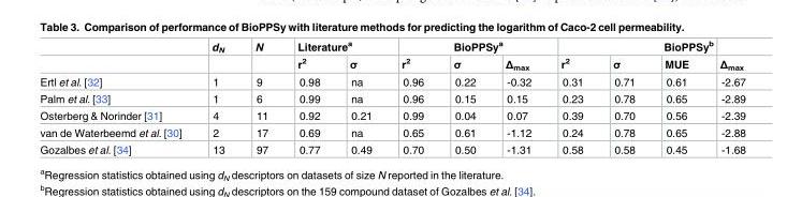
<table><thead><tr><td rowspan="2"></td><td rowspan="2">d<sub>N</sub></td><td rowspan="2">N</td><td colspan="2">Literature<sup>a</sup></td><td colspan="3">BioPPSy<sup>a</sup></td><td colspan="3">BioPPSy<sup>b</sup></td><td rowspan="2">Δ<sub>max</sub></td></tr><tr><td>r<sup>2</sup></td><td>σ</td><td>r<sup>2</sup></td><td>σ</td><td>Δ<sub>max</sub></td><td>r<sup>2</sup></td><td>σ</td><td>MUE</td></tr></thead><tbody><tr><td>Ertl et al. [32]</td><td>1</td><td>9</td><td>0.98</td><td>na</td><td>0.96</td><td>0.22</td><td>-0.32</td><td>0.31</td><td>0.71</td><td>0.61</td><td>-2.67</td></tr><tr><td>Palm et al. [33]</td><td>1</td><td>6</td><td>0.99</td><td>na</td><td>0.96</td><td>0.15</td><td>0.15</td><td>0.23</td><td>0.78</td><td>0.65</td><td>-2.89</td></tr><tr><td>Osterberg &amp; Norinder [31]</td><td>4</td><td>11</td><td>0.92</td><td>0.21</td><td>0.99</td><td>0.04</td><td>0.07</td><td>0.39</td><td>0.70</td><td>0.56</td><td>-2.39</td></tr><tr><td>van de Waterbeemd et al. [30]</td><td>2</td><td>17</td><td>0.69</td><td>na</td><td>0.65</td><td>0.61</td><td>-1.12</td><td>0.24</td><td>0.78</td><td>0.65</td><td>-2.88</td></tr><tr><td>Gozalbes et al. [34]</td><td>13</td><td>97</td><td>0.77</td><td>0.49</td><td>0.70</td><td>0.50</td><td>-1.31</td><td>0.58</td><td>0.58</td><td>0.45</td><td>-1.68</td></tr></tbody></table>